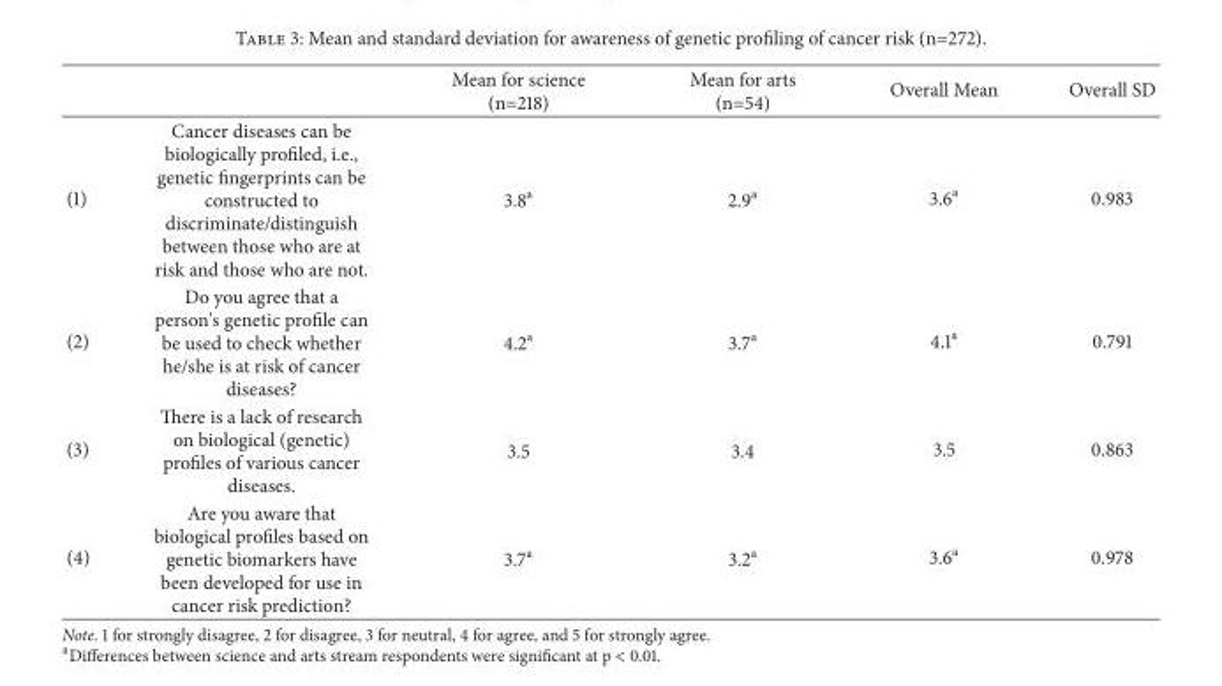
<table><thead><tr><td></td><td></td><td>Mean for science (n=218)</td><td>Mean for arts (n=54)</td><td>Overall Mean</td><td>Overall SD</td></tr></thead><tbody><tr><td>(1)</td><td>Cancer diseases can be biologically profiled, i.e., genetic fingerprints can be constructed to discriminate/distinguish between those who are at risk and those who are not.</td><td>3.8<sup>a</sup></td><td>2.9<sup>a</sup></td><td>3.6<sup>a</sup></td><td>0.983</td></tr><tr><td>(2)</td><td>Do you agree that a person&#x27;s genetic profile can be used to check whether he/she is at risk of cancer diseases?</td><td>4.2<sup>a</sup></td><td>3.7<sup>a</sup></td><td>4.1<sup>a</sup></td><td>0.791</td></tr><tr><td>(3)</td><td>There is a lack of research on biological (genetic) profiles of various cancer diseases.</td><td>3.5</td><td>3.4</td><td>3.5</td><td>0.863</td></tr><tr><td>(4)</td><td>Are you aware that biological profiles based on genetic biomarkers have been developed for use in cancer risk prediction?</td><td>3.7<sup>a</sup></td><td>3.2<sup>a</sup></td><td>3.6<sup>a</sup></td><td>0.978</td></tr></tbody></table>